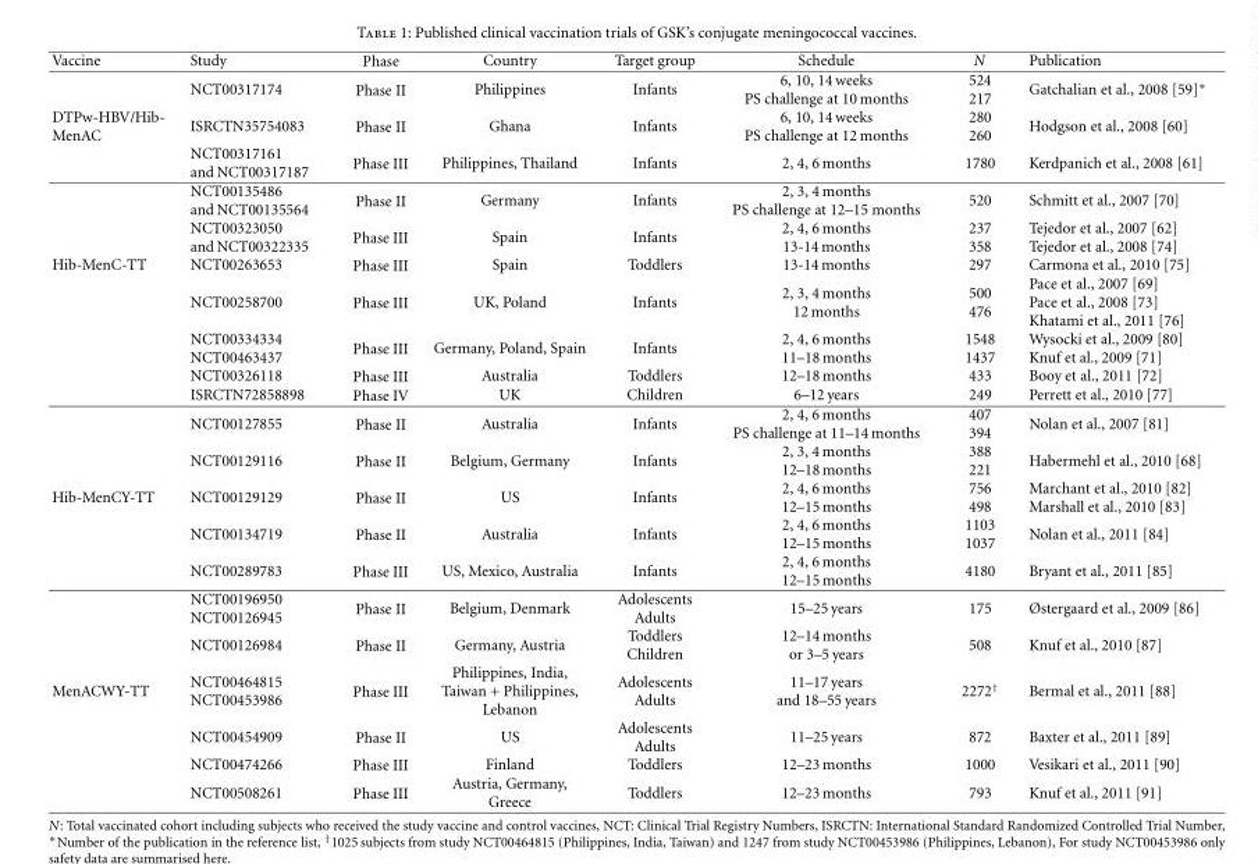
<table><thead><tr><td>Vaccine</td><td>Study</td><td>Phase</td><td>Country</td><td>Target group</td><td>Schedule</td><td>N</td><td>Publication</td></tr></thead><tbody><tr><td></td><td>NCT00317174</td><td>Phase II</td><td>Philippines</td><td>Infants</td><td>6, 10, 14 weeks PS challenge at 10 months</td><td>524 217</td><td>Gatchalian et al., 2008 [59]∗</td></tr><tr><td rowspan="4">DTPw-HBV/Hib- MenAC</td><td>ISRCTN35754083</td><td>Phase II</td><td>Ghana</td><td>Infants</td><td>6, 10, 14 weeks PS challenge at 12 months</td><td>280 260</td><td>Hodgson et al., 2008 [60]</td></tr><tr><td>NCT00317161 and NCT00317187</td><td>Phase III</td><td>Philippines, Thailand</td><td>Infants</td><td>2, 4, 6 months</td><td>1780</td><td>Kerdpanich et al., 2008 [61]</td></tr><tr><td>NCT00135486 and NCT00135564</td><td>Phase II</td><td>Germany</td><td>Infants</td><td>2, 3, 4 months PS challenge at 12–15 months</td><td>520</td><td>Schmitt et al., 2007 [70]</td></tr><tr><td>NCT00323050 and NCT00322335</td><td>Phase III</td><td>Spain</td><td>Infants</td><td>2, 4, 6 months 13-14 months</td><td>237 358</td><td>Tejedor et al., 2007 [62] Tejedor et al., 2008 [74]</td></tr><tr><td rowspan="7">Hib-MenC-TT</td><td>NCT00263653</td><td>Phase III</td><td>Spain</td><td>Toddlers</td><td>13-14 months</td><td>297</td><td>Carmona et al., 2010 [75]</td></tr><tr><td>NCT00258700</td><td>Phase III</td><td>UK, Poland</td><td>Infants</td><td>2, 3, 4 months 12 months</td><td>500 476</td><td>Pace et al., 2007 [69] Pace et al., 2008 [73] Khatami et al., 2011 [76]</td></tr><tr><td>NCT00334334 NCT00463437</td><td>Phase III</td><td>Germany, Poland, Spain</td><td>Infants</td><td>2, 4, 6 months 11–18 months</td><td>1548 1437</td><td>Wysocki et al., 2009 [80] Knuf et al., 2009 [71]</td></tr><tr><td>NCT00326118</td><td>Phase III</td><td>Australia</td><td>Toddlers</td><td>12–18 months</td><td>433</td><td>Booy et al., 2011 [72]</td></tr><tr><td>ISRCTN72858898</td><td>Phase IV</td><td>UK</td><td>Children</td><td>6–12 years</td><td>249</td><td>Perrett et al., 2010 [77]</td></tr><tr><td>NCT00127855</td><td>Phase II</td><td>Australia</td><td>Infants</td><td>2, 4, 6 months PS challenge at 11–14 months</td><td>407 394</td><td>Nolan et al., 2007 [81]</td></tr><tr><td>NCT00129116</td><td>Phase II</td><td>Belgium, Germany</td><td>Infants</td><td>2, 3, 4 months 12–18 months</td><td>388 221</td><td>Habermehl et al., 2010 [68]</td></tr><tr><td rowspan="5">Hib-MenCY-TT</td><td>NCT00129129</td><td>Phase II</td><td>US</td><td>Infants</td><td>2, 4, 6 months 12–15 months</td><td>756 498</td><td>Marchant et al., 2010 [82] Marshall et al., 2010 [83]</td></tr><tr><td>NCT00134719</td><td>Phase II</td><td>Australia</td><td>Infants</td><td>2, 4, 6 months 12–15 months</td><td>1103 1037</td><td>Nolan et al., 2011 [84]</td></tr><tr><td>NCT00289783</td><td>Phase III</td><td>US, Mexico, Australia</td><td>Infants</td><td>2, 4, 6 months 12–15 months</td><td>4180</td><td>Bryant et al., 2011 [85]</td></tr><tr><td>NCT00196950 NCT00126945</td><td>Phase II</td><td>Belgium, Denmark</td><td>Adolescents Adults</td><td>15–25 years</td><td>175</td><td>Østergaard et al., 2009 [86]</td></tr><tr><td>NCT00126984</td><td>Phase II</td><td>Germany, Austria</td><td>Toddlers Children</td><td>12–14 months or 3–5 years</td><td>508</td><td>Knuf et al., 2010 [87]</td></tr><tr><td rowspan="4">MenACWY-TT</td><td>NCT00464815 NCT00453986</td><td>Phase III</td><td>Philippines, India, Taiwan + Philippines, Lebanon</td><td>Adolescents Adults</td><td>11–17 years and 18–55 years</td><td>2272<sup>†</sup></td><td>Bermal et al., 2011 [88]</td></tr><tr><td>NCT00454909</td><td>Phase II</td><td>US</td><td>Adolescents Adults</td><td>11–25 years</td><td>872</td><td>Baxter et al., 2011 [89]</td></tr><tr><td>NCT00474266</td><td>Phase III</td><td>Finland</td><td>Toddlers</td><td>12–23 months</td><td>1000</td><td>Vesikari et al., 2011 [90]</td></tr><tr><td>NCT00508261</td><td>Phase III</td><td>Austria, Germany, Greece</td><td>Toddlers</td><td>12–23 months</td><td>793</td><td>Knuf et al., 2011 [91]</td></tr></tbody></table>